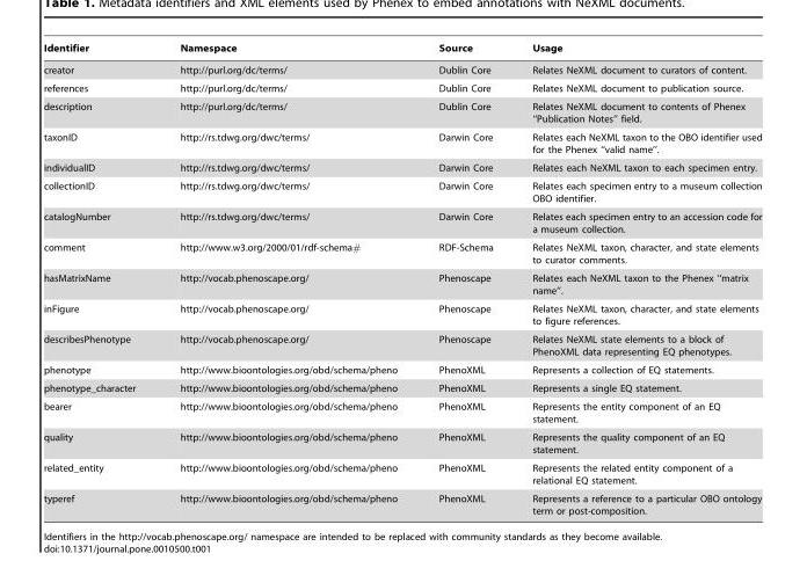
<table><thead><tr><td>Identifier</td><td>Namespace</td><td>Source</td><td>Usage</td></tr></thead><tbody><tr><td>creator</td><td>http://purl.org/dc/terms/</td><td>Dublin Core</td><td>Relates NeXML document to curators of content.</td></tr><tr><td>references</td><td>http://purl.org/dc/terms/</td><td>Dublin Core</td><td>Relates NeXML document to publication source.</td></tr><tr><td>description</td><td>http://purl.org/dc/terms/</td><td>Dublin Core</td><td>Relates NeXML document to contents of Phenex ‘‘Publication Notes’’ field.</td></tr><tr><td>taxonID</td><td>http://rs.tdwg.org/dwc/terms/</td><td>Darwin Core</td><td>Relates each NeXML taxon to the OBO identifier used for the Phenex ‘‘valid name’’.</td></tr><tr><td>individualID</td><td>http://rs.tdwg.org/dwc/terms/</td><td>Darwin Core</td><td>Relates each NeXML taxon to each specimen entry.</td></tr><tr><td>collectionID</td><td>http://rs.tdwg.org/dwc/terms/</td><td>Darwin Core</td><td>Relates each specimen entry to a museum collection OBO identifier.</td></tr><tr><td>catalogNumber</td><td>http://rs.tdwg.org/dwc/terms/</td><td>Darwin Core</td><td>Relates each specimen entry to an accession code for a museum collection.</td></tr><tr><td>comment</td><td>http://www.w3.org/2000/01/rdf-schema#</td><td>RDF-Schema</td><td>Relates NeXML taxon, character, and state elements to curator comments.</td></tr><tr><td>hasMatrixName</td><td>http://vocab.phenoscape.org/</td><td>Phenoscape</td><td>Relates each NeXML taxon to the Phenex ‘‘matrix name’’.</td></tr><tr><td>inFigure</td><td>http://vocab.phenoscape.org/</td><td>Phenoscape</td><td>Relates NeXML taxon, character, and state elements to figure references.</td></tr><tr><td>describesPhenotype</td><td>http://vocab.phenoscape.org/</td><td>Phenoscape</td><td>Relates NeXML state elements to a block of PhenoXML data representing EQ phenotypes.</td></tr><tr><td>phenotype</td><td>http://www.bioontologies.org/obd/schema/pheno</td><td>PhenoXML</td><td>Represents a collection of EQ statements.</td></tr><tr><td>phenotype_character</td><td>http://www.bioontologies.org/obd/schema/pheno</td><td>PhenoXML</td><td>Represents a single EQ statement.</td></tr><tr><td>bearer</td><td>http://www.bioontologies.org/obd/schema/pheno</td><td>PhenoXML</td><td>Represents the entity component of an EQ statement.</td></tr><tr><td>quality</td><td>http://www.bioontologies.org/obd/schema/pheno</td><td>PhenoXML</td><td>Represents the quality component of an EQ statement.</td></tr><tr><td>related_entity</td><td>http://www.bioontologies.org/obd/schema/pheno</td><td>PhenoXML</td><td>Represents the related entity component of a relational EQ statement.</td></tr><tr><td>typeref</td><td>http://www.bioontologies.org/obd/schema/pheno</td><td>PhenoXML</td><td>Represents a reference to a particular OBO ontology term or post-composition.</td></tr></tbody></table>